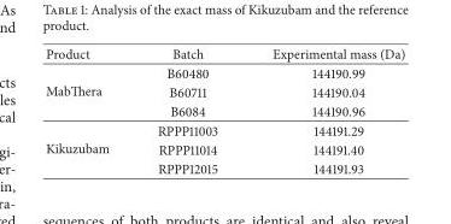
<table><thead><tr><td>Product</td><td>Batch</td><td>Experimental mass (Da)</td></tr></thead><tbody><tr><td rowspan="3">MabThera</td><td>B60480</td><td>144190.99</td></tr><tr><td>B60711</td><td>144190.04</td></tr><tr><td>B6084</td><td>144190.96</td></tr><tr><td rowspan="3">Kikuzubam</td><td>RPPP11003</td><td>144191.29</td></tr><tr><td>RPPP11014</td><td>144191.40</td></tr><tr><td>RPPP12015</td><td>144191.93</td></tr></tbody></table>